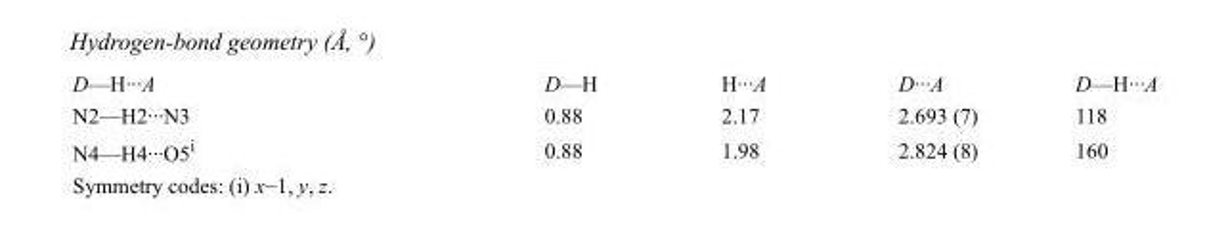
<table><tbody><tr><td>D—H···A</td><td>D—H</td><td>H···A</td><td>D···A</td><td>D—H···A</td></tr><tr><td>N2—H2···N3</td><td>0.88</td><td>2.17</td><td>2.693 (7)</td><td>118</td></tr><tr><td>N4—H4···O5<sup>i</sup></td><td>0.88</td><td>1.98</td><td>2.824 (8)</td><td>160</td></tr></tbody></table>